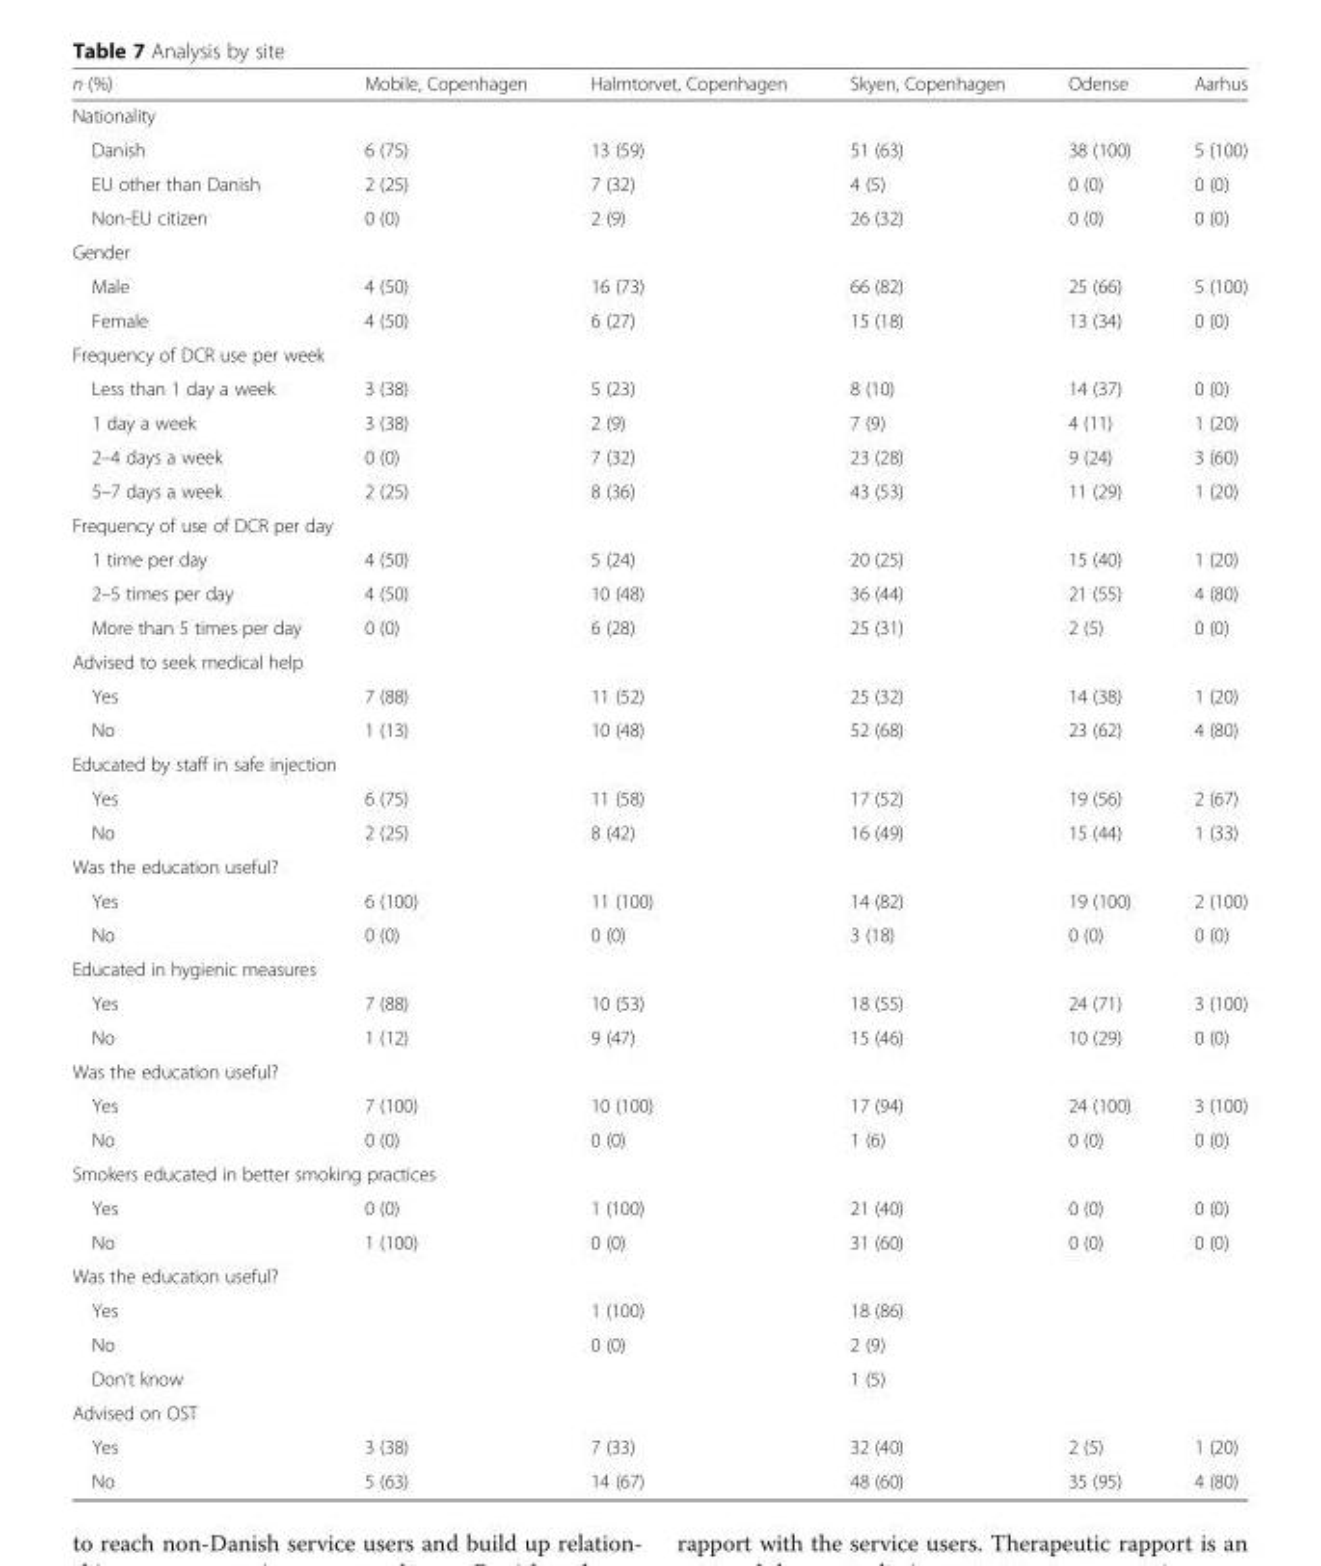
<table><thead><tr><td>n (%)</td><td>Mobile, Copenhagen</td><td>Halmtorvet, Copenhagen</td><td>Skyen, Copenhagen</td><td>Odense</td><td>Aarhus</td></tr></thead><tbody><tr><td colspan="6">Nationality</td></tr><tr><td>Danish</td><td>6 (75)</td><td>13 (59)</td><td>51 (63)</td><td>38 (100)</td><td>5 (100)</td></tr><tr><td>EU other than Danish</td><td>2 (25)</td><td>7 (32)</td><td>4 (5)</td><td>0 (0)</td><td>0 (0)</td></tr><tr><td>Non-EU citizen</td><td>0 (0)</td><td>2 (9)</td><td>26 (32)</td><td>0 (0)</td><td>0 (0)</td></tr><tr><td colspan="6">Gender</td></tr><tr><td>Male</td><td>4 (50)</td><td>16 (73)</td><td>66 (82)</td><td>25 (66)</td><td>5 (100)</td></tr><tr><td>Female</td><td>4 (50)</td><td>6 (27)</td><td>15 (18)</td><td>13 (34)</td><td>0 (0)</td></tr><tr><td colspan="6">Frequency of DCR use per week</td></tr><tr><td>Less than 1 day a week</td><td>3 (38)</td><td>5 (23)</td><td>8 (10)</td><td>14 (37)</td><td>0 (0)</td></tr><tr><td>1 day a week</td><td>3 (38)</td><td>2 (9)</td><td>7 (9)</td><td>4 (11)</td><td>1 (20)</td></tr><tr><td>2–4 days a week</td><td>0 (0)</td><td>7 (32)</td><td>23 (28)</td><td>9 (24)</td><td>3 (60)</td></tr><tr><td>5–7 days a week</td><td>2 (25)</td><td>8 (36)</td><td>43 (53)</td><td>11 (29)</td><td>1 (20)</td></tr><tr><td colspan="6">Frequency of use of DCR per day</td></tr><tr><td>1 time per day</td><td>4 (50)</td><td>5 (24)</td><td>20 (25)</td><td>15 (40)</td><td>1 (20)</td></tr><tr><td>2–5 times per day</td><td>4 (50)</td><td>10 (48)</td><td>36 (44)</td><td>21 (55)</td><td>4 (80)</td></tr><tr><td>More than 5 times per day</td><td>0 (0)</td><td>6 (28)</td><td>25 (31)</td><td>2 (5)</td><td>0 (0)</td></tr><tr><td colspan="6">Advised to seek medical help</td></tr><tr><td>Yes</td><td>7 (88)</td><td>11 (52)</td><td>25 (32)</td><td>14 (38)</td><td>1 (20)</td></tr><tr><td>No</td><td>1 (13)</td><td>10 (48)</td><td>52 (68)</td><td>23 (62)</td><td>4 (80)</td></tr><tr><td colspan="6">Educated by staff in safe injection</td></tr><tr><td>Yes</td><td>6 (75)</td><td>11 (58)</td><td>17 (52)</td><td>19 (56)</td><td>2 (67)</td></tr><tr><td>No</td><td>2 (25)</td><td>8 (42)</td><td>16 (49)</td><td>15 (44)</td><td>1 (33)</td></tr><tr><td colspan="6">Was the education useful?</td></tr><tr><td>Yes</td><td>6 (100)</td><td>11 (100)</td><td>14 (82)</td><td>19 (100)</td><td>2 (100)</td></tr><tr><td>No</td><td>0 (0)</td><td>0 (0)</td><td>3 (18)</td><td>0 (0)</td><td>0 (0)</td></tr><tr><td colspan="6">Educated in hygienic measures</td></tr><tr><td>Yes</td><td>7 (88)</td><td>10 (53)</td><td>18 (55)</td><td>24 (71)</td><td>3 (100)</td></tr><tr><td>No</td><td>1 (12)</td><td>9 (47)</td><td>15 (46)</td><td>10 (29)</td><td>0 (0)</td></tr><tr><td colspan="6">Was the education useful?</td></tr><tr><td>Yes</td><td>7 (100)</td><td>10 (100)</td><td>17 (94)</td><td>24 (100)</td><td>3 (100)</td></tr><tr><td>No</td><td>0 (0)</td><td>0 (0)</td><td>1 (6)</td><td>0 (0)</td><td>0 (0)</td></tr><tr><td colspan="6">Smokers educated in better smoking practices</td></tr><tr><td>Yes</td><td>0 (0)</td><td>1 (100)</td><td>21 (40)</td><td>0 (0)</td><td>0 (0)</td></tr><tr><td>No</td><td>1 (100)</td><td>0 (0)</td><td>31 (60)</td><td>0 (0)</td><td>0 (0)</td></tr><tr><td colspan="6">Was the education useful?</td></tr><tr><td>Yes</td><td></td><td>1 (100)</td><td>18 (86)</td><td></td><td></td></tr><tr><td>No</td><td></td><td>0 (0)</td><td>2 (9)</td><td></td><td></td></tr><tr><td>Don’t know</td><td></td><td></td><td>1 (5)</td><td></td><td></td></tr><tr><td colspan="6">Advised on OST</td></tr><tr><td>Yes</td><td>3 (38)</td><td>7 (33)</td><td>32 (40)</td><td>2 (5)</td><td>1 (20)</td></tr><tr><td>No</td><td>5 (63)</td><td>14 (67)</td><td>48 (60)</td><td>35 (95)</td><td>4 (80)</td></tr></tbody></table>